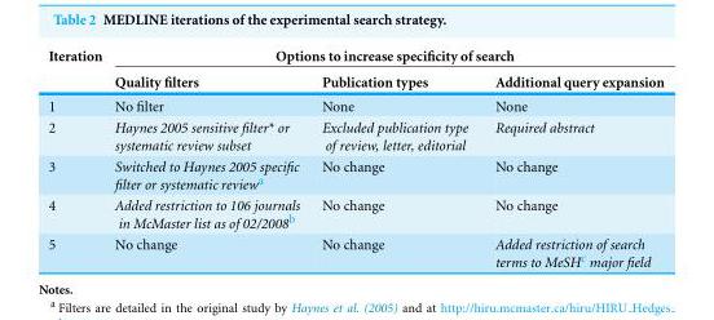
<table><thead><tr><td rowspan="2">Iteration</td><td colspan="3">Options to increase specificity of search</td></tr><tr><td>Quality filters</td><td>Publication types</td><td>Additional query expansion</td></tr></thead><tbody><tr><td>1</td><td>No filter</td><td>None</td><td>None</td></tr><tr><td>2</td><td>Haynes 2005 sensitive filter* or systematic review subset</td><td>Excluded publication type of review, letter, editorial</td><td>Required abstract</td></tr><tr><td>3</td><td>Switched to Haynes 2005 specific filter or systematic review<sup>a</sup></td><td>No change</td><td>No change</td></tr><tr><td>4</td><td>Added restriction to 106 journals in McMaster list as of 02/2008<sup>b</sup></td><td>No change</td><td>No change</td></tr><tr><td>5</td><td>No change</td><td>No change</td><td>Added restriction of search terms to MeSH<sup>c</sup> major field</td></tr></tbody></table>